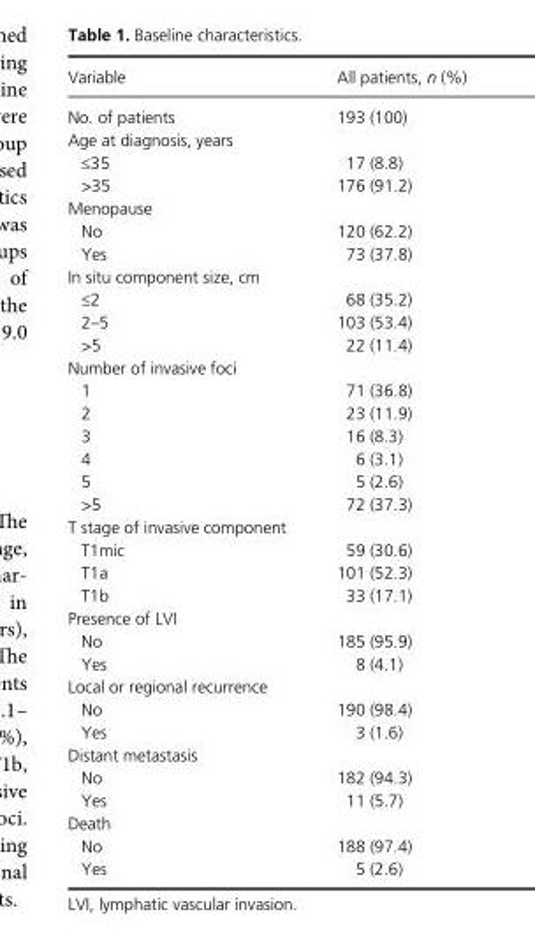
<table><thead><tr><td>Variable</td><td>All patients, n (%)</td></tr></thead><tbody><tr><td>No. of patients</td><td>193 (100)</td></tr><tr><td colspan="2">Age at diagnosis, years</td></tr><tr><td>≤35</td><td>17 (8.8)</td></tr><tr><td>&gt;35</td><td>176 (91.2)</td></tr><tr><td colspan="2">Menopause</td></tr><tr><td>No</td><td>120 (62.2)</td></tr><tr><td>Yes</td><td>73 (37.8)</td></tr><tr><td colspan="2">In situ component size, cm</td></tr><tr><td>≤2</td><td>68 (35.2)</td></tr><tr><td>2–5</td><td>103 (53.4)</td></tr><tr><td>&gt;5</td><td>22 (11.4)</td></tr><tr><td colspan="2">Number of invasive foci</td></tr><tr><td>1</td><td>71 (36.8)</td></tr><tr><td>2</td><td>23 (11.9)</td></tr><tr><td>3</td><td>16 (8.3)</td></tr><tr><td>4</td><td>6 (3.1)</td></tr><tr><td>5</td><td>5 (2.6)</td></tr><tr><td>&gt;5</td><td>72 (37.3)</td></tr><tr><td colspan="2">T stage of invasive component</td></tr><tr><td>T1mic</td><td>59 (30.6)</td></tr><tr><td>T1a</td><td>101 (52.3)</td></tr><tr><td>T1b</td><td>33 (17.1)</td></tr><tr><td colspan="2">Presence of LVI</td></tr><tr><td>No</td><td>185 (95.9)</td></tr><tr><td>Yes</td><td>8 (4.1)</td></tr><tr><td colspan="2">Local or regional recurrence</td></tr><tr><td>No</td><td>190 (98.4)</td></tr><tr><td>Yes</td><td>3 (1.6)</td></tr><tr><td colspan="2">Distant metastasis</td></tr><tr><td>No</td><td>182 (94.3)</td></tr><tr><td>Yes</td><td>11 (5.7)</td></tr><tr><td colspan="2">Death</td></tr><tr><td>No</td><td>188 (97.4)</td></tr><tr><td>Yes</td><td>5 (2.6)</td></tr></tbody></table>